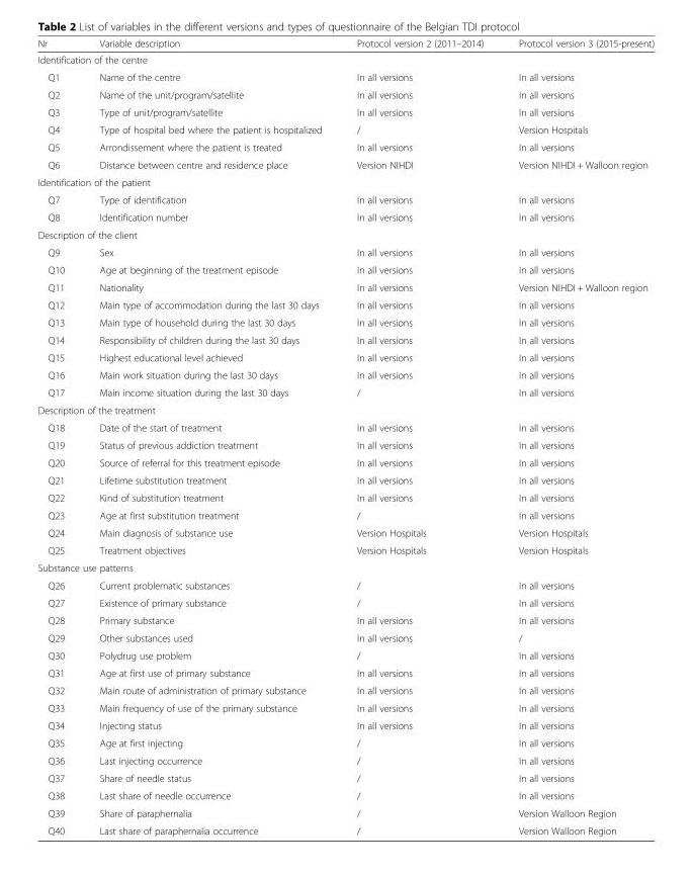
<table><thead><tr><td>Nr</td><td>Variable description</td><td>Protocol version 2 (2011–2014)</td><td>Protocol version 3 (2015-present)</td></tr></thead><tbody><tr><td colspan="4">Identification of the centre</td></tr><tr><td>Q1</td><td>Name of the centre</td><td>In all versions</td><td>In all versions</td></tr><tr><td>Q2</td><td>Name of the unit/program/satellite</td><td>In all versions</td><td>In all versions</td></tr><tr><td>Q3</td><td>Type of unit/program/satellite</td><td>In all versions</td><td>In all versions</td></tr><tr><td>Q4</td><td>Type of hospital bed where the patient is hospitalized</td><td>/</td><td>Version Hospitals</td></tr><tr><td>Q5</td><td>Arrondissement where the patient is treated</td><td>In all versions</td><td>In all versions</td></tr><tr><td>Q6</td><td>Distance between centre and residence place</td><td>Version NIHDI</td><td>Version NIHDI + Walloon region</td></tr><tr><td colspan="4">Identification of the patient</td></tr><tr><td>Q7</td><td>Type of identification</td><td>In all versions</td><td>In all versions</td></tr><tr><td>Q8</td><td>Identification number</td><td>In all versions</td><td>In all versions</td></tr><tr><td colspan="4">Description of the client</td></tr><tr><td>Q9</td><td>Sex</td><td>In all versions</td><td>In all versions</td></tr><tr><td>Q10</td><td>Age at beginning of the treatment episode</td><td>In all versions</td><td>In all versions</td></tr><tr><td>Q11</td><td>Nationality</td><td>In all versions</td><td>Version NIHDI + Walloon region</td></tr><tr><td>Q12</td><td>Main type of accommodation during the last 30 days</td><td>In all versions</td><td>In all versions</td></tr><tr><td>Q13</td><td>Main type of household during the last 30 days</td><td>In all versions</td><td>In all versions</td></tr><tr><td>Q14</td><td>Responsibility of children during the last 30 days</td><td>In all versions</td><td>In all versions</td></tr><tr><td>Q15</td><td>Highest educational level achieved</td><td>In all versions</td><td>In all versions</td></tr><tr><td>Q16</td><td>Main work situation during the last 30 days</td><td>In all versions</td><td>In all versions</td></tr><tr><td>Q17</td><td>Main income situation during the last 30 days</td><td>/</td><td>In all versions</td></tr><tr><td colspan="4">Description of the treatment</td></tr><tr><td>Q18</td><td>Date of the start of treatment</td><td>In all versions</td><td>In all versions</td></tr><tr><td>Q19</td><td>Status of previous addiction treatment</td><td>In all versions</td><td>In all versions</td></tr><tr><td>Q20</td><td>Source of referral for this treatment episode</td><td>In all versions</td><td>In all versions</td></tr><tr><td>Q21</td><td>Lifetime substitution treatment</td><td>In all versions</td><td>In all versions</td></tr><tr><td>Q22</td><td>Kind of substitution treatment</td><td>In all versions</td><td>In all versions</td></tr><tr><td>Q23</td><td>Age at first substitution treatment</td><td>/</td><td>In all versions</td></tr><tr><td>Q24</td><td>Main diagnosis of substance use</td><td>Version Hospitals</td><td>Version Hospitals</td></tr><tr><td>Q25</td><td>Treatment objectives</td><td>Version Hospitals</td><td>Version Hospitals</td></tr><tr><td colspan="4">Substance use patterns</td></tr><tr><td>Q26</td><td>Current problematic substances</td><td>/</td><td>In all versions</td></tr><tr><td>Q27</td><td>Existence of primary substance</td><td>/</td><td>In all versions</td></tr><tr><td>Q28</td><td>Primary substance</td><td>In all versions</td><td>In all versions</td></tr><tr><td>Q29</td><td>Other substances used</td><td>In all versions</td><td>/</td></tr><tr><td>Q30</td><td>Polydrug use problem</td><td>/</td><td>In all versions</td></tr><tr><td>Q31</td><td>Age at first use of primary substance</td><td>In all versions</td><td>In all versions</td></tr><tr><td>Q32</td><td>Main route of administration of primary substance</td><td>In all versions</td><td>In all versions</td></tr><tr><td>Q33</td><td>Main frequency of use of the primary substance</td><td>In all versions</td><td>In all versions</td></tr><tr><td>Q34</td><td>Injecting status</td><td>In all versions</td><td>In all versions</td></tr><tr><td>Q35</td><td>Age at first injecting</td><td>/</td><td>In all versions</td></tr><tr><td>Q36</td><td>Last injecting occurrence</td><td>/</td><td>In all versions</td></tr><tr><td>Q37</td><td>Share of needle status</td><td>/</td><td>In all versions</td></tr><tr><td>Q38</td><td>Last share of needle occurrence</td><td>/</td><td>In all versions</td></tr><tr><td>Q39</td><td>Share of paraphernalia</td><td>/</td><td>Version Walloon Region</td></tr><tr><td>Q40</td><td>Last share of paraphernalia occurrence</td><td>/</td><td>Version Walloon Region</td></tr></tbody></table>